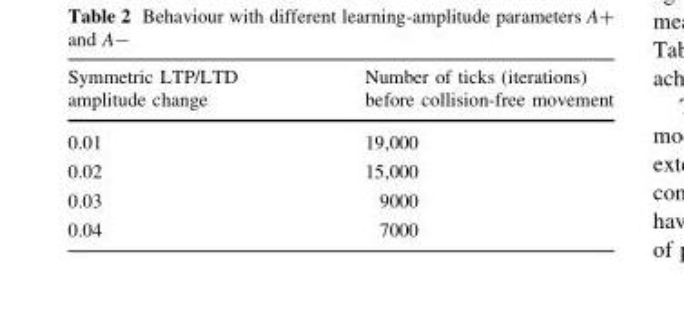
<table><thead><tr><td>Symmetric LTP/LTD amplitude change</td><td>Number of ticks (iterations) before collision-free movement</td></tr></thead><tbody><tr><td>0.01</td><td>19,000</td></tr><tr><td>0.02</td><td>15,000</td></tr><tr><td>0.03</td><td>9000</td></tr><tr><td>0.04</td><td>7000</td></tr></tbody></table>